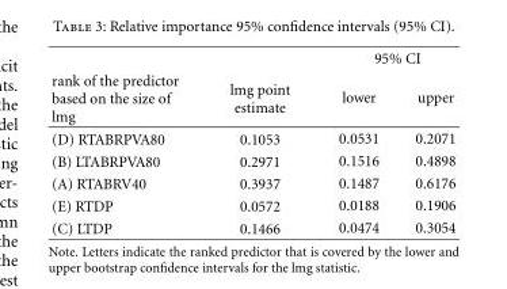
<table><thead><tr><td rowspan="2">rank of the predictor based on the size of lmg</td><td rowspan="2">lmg point estimate</td><td colspan="2">95% CI</td></tr><tr><td>lower</td><td>upper</td></tr></thead><tbody><tr><td>(D) RTABRPVA80</td><td>0.1053</td><td>0.0531</td><td>0.2071</td></tr><tr><td>(B) LTABRPVA80</td><td>0.2971</td><td>0.1516</td><td>0.4898</td></tr><tr><td>(A) RTABRV40</td><td>0.3937</td><td>0.1487</td><td>0.6176</td></tr><tr><td>(E) RTDP</td><td>0.0572</td><td>0.0188</td><td>0.1906</td></tr><tr><td>(C) LTDP</td><td>0.1466</td><td>0.0474</td><td>0.3054</td></tr></tbody></table>